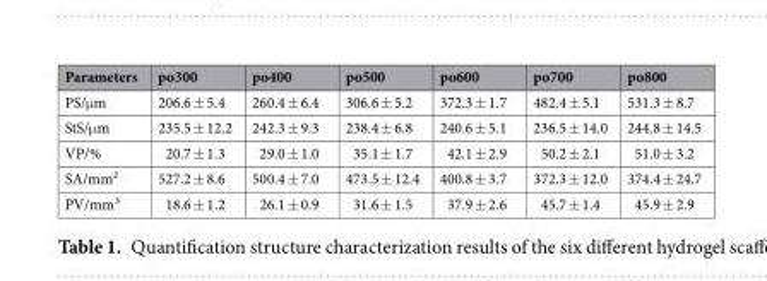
<table><thead><tr><td>Parameters</td><td>po300</td><td>po400</td><td>po500</td><td>po600</td><td>po700</td><td>po800</td></tr></thead><tbody><tr><td>PS/μm</td><td>206.6 ± 5.4</td><td>260.4 ± 6.4</td><td>306.6 ± 5.2</td><td>372.3 ± 1.7</td><td>482.4 ± 5.1</td><td>531.3 ± 8.7</td></tr><tr><td>StS/μm</td><td>235.5 ± 12.2</td><td>242.3 ± 9.3</td><td>238.4 ± 6.8</td><td>240.6 ± 5.1</td><td>236.5 ± 14.0</td><td>244.8 ± 14.5</td></tr><tr><td>VP/%</td><td>20.7 ± 1.3</td><td>29.0 ± 1.0</td><td>35.1 ± 1.7</td><td>42.1 ± 2.9</td><td>50.2 ± 2.1</td><td>51.0 ± 3.2</td></tr><tr><td>SA/mm²</td><td>527.2 ± 8.6</td><td>500.4 ± 7.0</td><td>473.5 ± 12.4</td><td>400.8 ± 3.7</td><td>372.3 ± 12.0</td><td>374.4 ± 24.7</td></tr><tr><td>PV/mm³</td><td>18.6 ± 1.2</td><td>26.1 ± 0.9</td><td>31.6 ± 1.5</td><td>37.9 ± 2.6</td><td>45.7 ± 1.4</td><td>45.9 ± 2.9</td></tr></tbody></table>